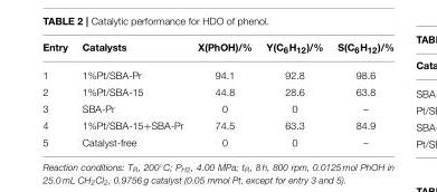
<table><thead><tr><td>Entry</td><td>Catalysts</td><td>X(PhOH)/%</td><td>Y(C<sub>6</sub>H<sub>12</sub>)/%</td><td>S(C<sub>6</sub>H<sub>12</sub>)/%</td></tr></thead><tbody><tr><td>1</td><td>1%Pt/SBA-Pr</td><td>94.1</td><td>92.8</td><td>98.6</td></tr><tr><td>2</td><td>1%Pt/SBA-15</td><td>44.8</td><td>28.6</td><td>63.8</td></tr><tr><td>3</td><td>SBA-Pr</td><td>0</td><td>0</td><td>–</td></tr><tr><td>4</td><td>1%Pt/SBA-15+SBA-Pr</td><td>74.5</td><td>63.3</td><td>84.9</td></tr><tr><td>5</td><td>Catalyst-free</td><td>0</td><td>0</td><td>–</td></tr></tbody></table>